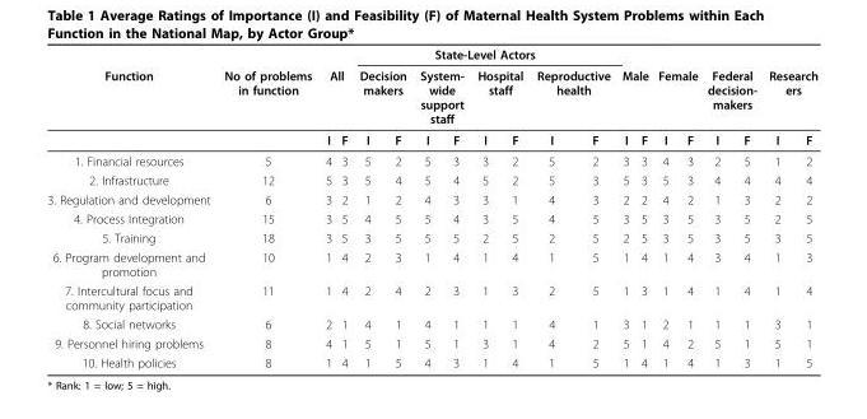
<table><thead><tr><td rowspan="3">Function</td><td rowspan="3">No of problems in function</td><td></td><td></td><td colspan="8">State-Level Actors</td><td></td><td></td><td></td><td></td><td></td><td></td><td></td><td></td></tr><tr><td colspan="2">All</td><td colspan="2">Decision makers</td><td colspan="2">System- wide support staff</td><td colspan="2">Hospital staff</td><td colspan="2">Reproductive health</td><td colspan="2">Male</td><td colspan="2">Female</td><td colspan="2">Federal decision- makers</td><td colspan="2">Research ers</td></tr><tr><td>I</td><td>F</td><td>I</td><td>F</td><td>I</td><td>F</td><td>I</td><td>F</td><td>I</td><td>F</td><td>I</td><td>F</td><td>I</td><td>F</td><td>I</td><td>F</td><td>I</td><td>F</td></tr></thead><tbody><tr><td>1. Financial resources</td><td>5</td><td>4</td><td>3</td><td>5</td><td>2</td><td>5</td><td>3</td><td>3</td><td>2</td><td>5</td><td>2</td><td>3</td><td>3</td><td>4</td><td>3</td><td>2</td><td>5</td><td>1</td><td>2</td></tr><tr><td>2. Infrastructure</td><td>12</td><td>5</td><td>3</td><td>5</td><td>4</td><td>5</td><td>4</td><td>5</td><td>2</td><td>5</td><td>3</td><td>5</td><td>3</td><td>5</td><td>3</td><td>4</td><td>4</td><td>4</td><td>4</td></tr><tr><td>3. Regulation and development</td><td>6</td><td>3</td><td>2</td><td>1</td><td>2</td><td>4</td><td>3</td><td>3</td><td>1</td><td>4</td><td>3</td><td>2</td><td>2</td><td>4</td><td>2</td><td>1</td><td>3</td><td>2</td><td>2</td></tr><tr><td>4. Process Integration</td><td>15</td><td>3</td><td>5</td><td>4</td><td>5</td><td>5</td><td>4</td><td>3</td><td>5</td><td>4</td><td>5</td><td>3</td><td>5</td><td>3</td><td>5</td><td>3</td><td>5</td><td>2</td><td>5</td></tr><tr><td>5. Training</td><td>18</td><td>3</td><td>5</td><td>3</td><td>5</td><td>5</td><td>5</td><td>2</td><td>5</td><td>2</td><td>5</td><td>2</td><td>5</td><td>3</td><td>5</td><td>3</td><td>5</td><td>3</td><td>5</td></tr><tr><td>6. Program development and promotion</td><td>10</td><td>1</td><td>4</td><td>2</td><td>3</td><td>1</td><td>4</td><td>1</td><td>4</td><td>1</td><td>5</td><td>1</td><td>4</td><td>1</td><td>4</td><td>3</td><td>4</td><td>1</td><td>3</td></tr><tr><td>7. Intercultural focus and community participation</td><td>11</td><td>1</td><td>4</td><td>2</td><td>4</td><td>2</td><td>3</td><td>1</td><td>3</td><td>2</td><td>5</td><td>1</td><td>3</td><td>1</td><td>4</td><td>1</td><td>4</td><td>1</td><td>4</td></tr><tr><td>8. Social networks</td><td>6</td><td>2</td><td>1</td><td>4</td><td>1</td><td>4</td><td>1</td><td>1</td><td>1</td><td>4</td><td>1</td><td>3</td><td>1</td><td>2</td><td>1</td><td>1</td><td>1</td><td>3</td><td>1</td></tr><tr><td>9. Personnel hiring problems</td><td>8</td><td>4</td><td>1</td><td>5</td><td>1</td><td>5</td><td>1</td><td>3</td><td>1</td><td>4</td><td>2</td><td>5</td><td>1</td><td>4</td><td>2</td><td>5</td><td>1</td><td>5</td><td>1</td></tr><tr><td>10. Health policies</td><td>8</td><td>1</td><td>4</td><td>1</td><td>5</td><td>4</td><td>3</td><td>1</td><td>4</td><td>1</td><td>5</td><td>1</td><td>4</td><td>1</td><td>4</td><td>1</td><td>3</td><td>1</td><td>5</td></tr></tbody></table>